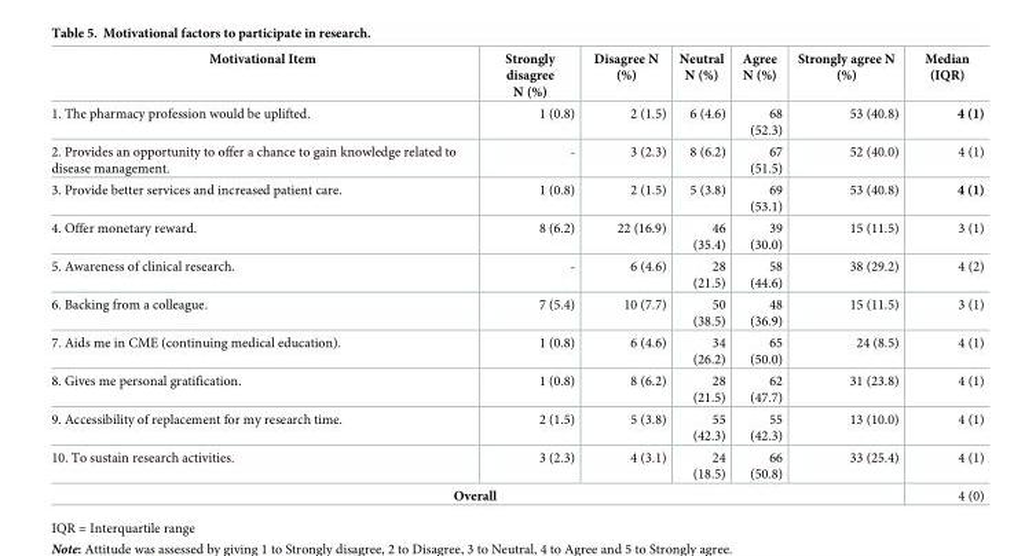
<table><thead><tr><td>Motivational Item</td><td>Strongly disagree N (%)</td><td>Disagree N (%)</td><td>Neutral N (%)</td><td>Agree N (%)</td><td>Strongly agree N (%)</td><td>Median (IQR)</td></tr></thead><tbody><tr><td>1. The pharmacy profession would be uplifted.</td><td>1 (0.8)</td><td>2 (1.5)</td><td>6 (4.6)</td><td>68 (52.3)</td><td>53 (40.8)</td><td>4 (1)</td></tr><tr><td>2. Provides an opportunity to offer a chance to gain knowledge related to disease management.</td><td>-</td><td>3 (2.3)</td><td>8 (6.2)</td><td>67 (51.5)</td><td>52 (40.0)</td><td>4 (1)</td></tr><tr><td>3. Provide better services and increased patient care.</td><td>1 (0.8)</td><td>2 (1.5)</td><td>5 (3.8)</td><td>69 (53.1)</td><td>53 (40.8)</td><td>4 (1)</td></tr><tr><td>4. Offer monetary reward.</td><td>8 (6.2)</td><td>22 (16.9)</td><td>46 (35.4)</td><td>39 (30.0)</td><td>15 (11.5)</td><td>3 (1)</td></tr><tr><td>5. Awareness of clinical research.</td><td>-</td><td>6 (4.6)</td><td>28 (21.5)</td><td>58 (44.6)</td><td>38 (29.2)</td><td>4 (2)</td></tr><tr><td>6. Backing from a colleague.</td><td>7 (5.4)</td><td>10 (7.7)</td><td>50 (38.5)</td><td>48 (36.9)</td><td>15 (11.5)</td><td>3 (1)</td></tr><tr><td>7. Aids me in CME (continuing medical education).</td><td>1 (0.8)</td><td>6 (4.6)</td><td>34 (26.2)</td><td>65 (50.0)</td><td>24 (8.5)</td><td>4 (1)</td></tr><tr><td>8. Gives me personal gratification.</td><td>1 (0.8)</td><td>8 (6.2)</td><td>28 (21.5)</td><td>62 (47.7)</td><td>31 (23.8)</td><td>4 (1)</td></tr><tr><td>9. Accessibility of replacement for my research time.</td><td>2 (1.5)</td><td>5 (3.8)</td><td>55 (42.3)</td><td>55 (42.3)</td><td>13 (10.0)</td><td>4 (1)</td></tr><tr><td>10. To sustain research activities.</td><td>3 (2.3)</td><td>4 (3.1)</td><td>24 (18.5)</td><td>66 (50.8)</td><td>33 (25.4)</td><td>4 (1)</td></tr><tr><td colspan="6">Overall</td><td>4 (0)</td></tr></tbody></table>